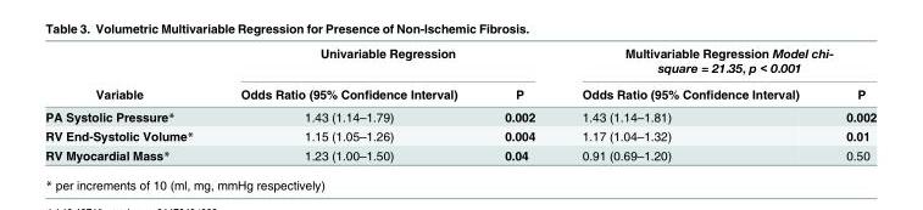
<table><thead><tr><td rowspan="2">Variable</td><td colspan="2">Univariable Regression</td><td colspan="2">Multivariable Regression Model chi- square = 21.35, p &lt; 0.001</td></tr><tr><td>Odds Ratio (95% Confidence Interval)</td><td>P</td><td>Odds Ratio (95% Confidence Interval)</td><td>P</td></tr></thead><tbody><tr><td>PA Systolic Pressure*</td><td>1.43 (1.14–1.79)</td><td>0.002</td><td>1.43 (1.14–1.81)</td><td>0.002</td></tr><tr><td>RV End-Systolic Volume*</td><td>1.15 (1.05–1.26)</td><td>0.004</td><td>1.17 (1.04–1.32)</td><td>0.01</td></tr><tr><td>RV Myocardial Mass*</td><td>1.23 (1.00–1.50)</td><td>0.04</td><td>0.91 (0.69–1.20)</td><td>0.50</td></tr></tbody></table>